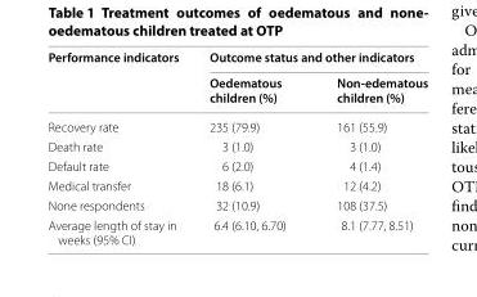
<table><thead><tr><td rowspan="2">Performance indicators</td><td colspan="2">Outcome status and other indicators</td></tr><tr><td>Oedematous children (%)</td><td>Non-edematous children (%)</td></tr></thead><tbody><tr><td>Recovery rate</td><td>235 (79.9)</td><td>161 (55.9)</td></tr><tr><td>Death rate</td><td>3 (1.0)</td><td>3 (1.0)</td></tr><tr><td>Default rate</td><td>6 (2.0)</td><td>4 (1.4)</td></tr><tr><td>Medical transfer</td><td>18 (6.1)</td><td>12 (4.2)</td></tr><tr><td>None respondents</td><td>32 (10.9)</td><td>108 (37.5)</td></tr><tr><td>Average length of stay in weeks (95% CI)</td><td>6.4 (6.10, 6.70)</td><td>8.1 (7.77, 8.51)</td></tr></tbody></table>